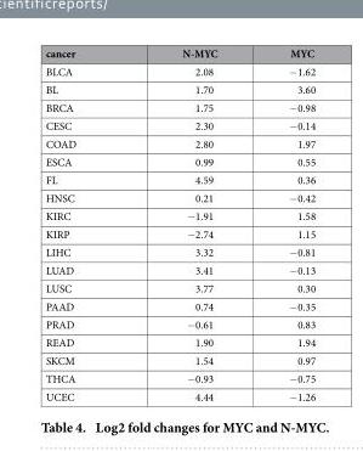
<table><thead><tr><td>cancer</td><td>N-MYC</td><td>MYC</td></tr></thead><tbody><tr><td>BLCA</td><td>2.08</td><td>− 1.62</td></tr><tr><td>BL</td><td>1.70</td><td>3.60</td></tr><tr><td>BRCA</td><td>1.75</td><td>− 0.98</td></tr><tr><td>CESC</td><td>2.30</td><td>− 0.14</td></tr><tr><td>COAD</td><td>2.80</td><td>1.97</td></tr><tr><td>ESCA</td><td>0.99</td><td>0.55</td></tr><tr><td>FL</td><td>4.59</td><td>0.36</td></tr><tr><td>HNSC</td><td>0.21</td><td>− 0.42</td></tr><tr><td>KIRC</td><td>− 1.91</td><td>1.58</td></tr><tr><td>KIRP</td><td>− 2.74</td><td>1.15</td></tr><tr><td>LIHC</td><td>3.32</td><td>− 0.81</td></tr><tr><td>LUAD</td><td>3.41</td><td>− 0.13</td></tr><tr><td>LUSC</td><td>3.77</td><td>0.30</td></tr><tr><td>PAAD</td><td>0.74</td><td>− 0.35</td></tr><tr><td>PRAD</td><td>− 0.61</td><td>0.83</td></tr><tr><td>READ</td><td>1.90</td><td>1.94</td></tr><tr><td>SKCM</td><td>1.54</td><td>0.97</td></tr><tr><td>THCA</td><td>− 0.93</td><td>− 0.75</td></tr><tr><td>UCEC</td><td>4.44</td><td>− 1.26</td></tr></tbody></table>